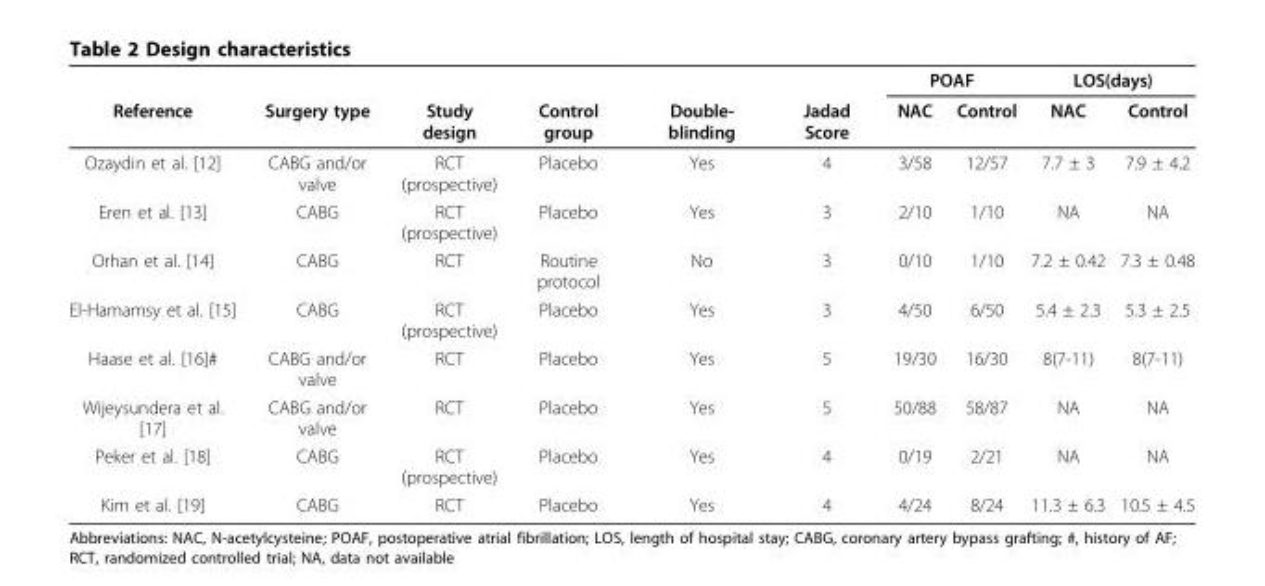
<table><thead><tr><td rowspan="2">Reference</td><td rowspan="2">Surgery type</td><td rowspan="2">Study design</td><td rowspan="2">Control group</td><td rowspan="2">Double- blinding</td><td rowspan="2">Jadad Score</td><td colspan="2">POAF</td><td colspan="2">LOS(days)</td></tr><tr><td>NAC</td><td>Control</td><td>NAC</td><td>Control</td></tr></thead><tbody><tr><td>Ozaydin et al. [12]</td><td>CABG and/or valve</td><td>RCT (prospective)</td><td>Placebo</td><td>Yes</td><td>4</td><td>3/58</td><td>12/57</td><td>7.7 ± 3</td><td>7.9 ± 4.2</td></tr><tr><td>Eren et al. [13]</td><td>CABG</td><td>RCT (prospective)</td><td>Placebo</td><td>Yes</td><td>3</td><td>2/10</td><td>1/10</td><td>NA</td><td>NA</td></tr><tr><td>Orhan et al. [14]</td><td>CABG</td><td>RCT</td><td>Routine protocol</td><td>No</td><td>3</td><td>0/10</td><td>1/10</td><td>7.2 ± 0.42</td><td>7.3 ± 0.48</td></tr><tr><td>El-Hamamsy et al. [15]</td><td>CABG</td><td>RCT (prospective)</td><td>Placebo</td><td>Yes</td><td>3</td><td>4/50</td><td>6/50</td><td>5.4 ± 2.3</td><td>5.3 ± 2.5</td></tr><tr><td>Haase et al. [16]#</td><td>CABG and/or valve</td><td>RCT</td><td>Placebo</td><td>Yes</td><td>5</td><td>19/30</td><td>16/30</td><td>8(7-11)</td><td>8(7-11)</td></tr><tr><td>Wijeysundera et al. [17]</td><td>CABG and/or valve</td><td>RCT</td><td>Placebo</td><td>Yes</td><td>5</td><td>50/88</td><td>58/87</td><td>NA</td><td>NA</td></tr><tr><td>Peker et al. [18]</td><td>CABG</td><td>RCT (prospective)</td><td>Placebo</td><td>Yes</td><td>4</td><td>0/19</td><td>2/21</td><td>NA</td><td>NA</td></tr><tr><td>Kim et al. [19]</td><td>CABG</td><td>RCT</td><td>Placebo</td><td>Yes</td><td>4</td><td>4/24</td><td>8/24</td><td>11.3 ± 6.3</td><td>10.5 ± 4.5</td></tr></tbody></table>